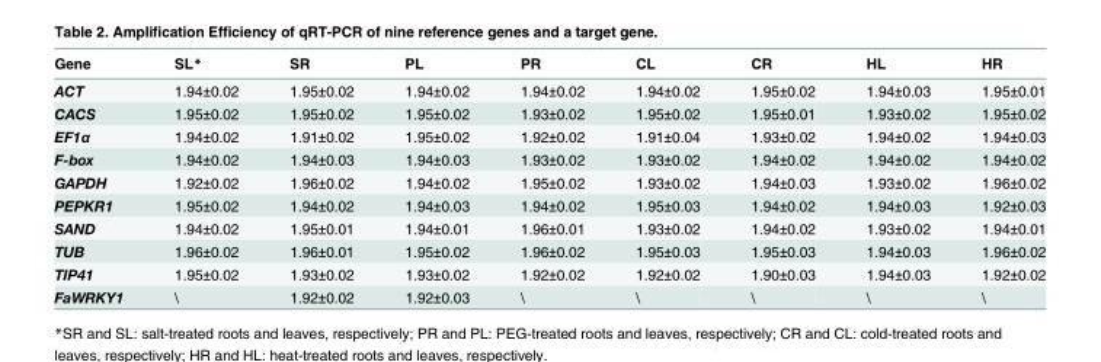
<table><thead><tr><td>Gene</td><td>SL*</td><td>SR</td><td>PL</td><td>PR</td><td>CL</td><td>CR</td><td>HL</td><td>HR</td></tr></thead><tbody><tr><td>ACT</td><td>1.94±0.02</td><td>1.95±0.02</td><td>1.94±0.02</td><td>1.94±0.02</td><td>1.94±0.02</td><td>1.95±0.02</td><td>1.94±0.03</td><td>1.95±0.01</td></tr><tr><td>CACS</td><td>1.95±0.02</td><td>1.95±0.02</td><td>1.95±0.02</td><td>1.93±0.02</td><td>1.95±0.02</td><td>1.95±0.01</td><td>1.93±0.02</td><td>1.95±0.02</td></tr><tr><td>EF1α</td><td>1.94±0.02</td><td>1.91±0.02</td><td>1.95±0.02</td><td>1.92±0.02</td><td>1.91±0.04</td><td>1.93±0.02</td><td>1.94±0.02</td><td>1.94±0.03</td></tr><tr><td>F-box</td><td>1.94±0.02</td><td>1.94±0.03</td><td>1.94±0.03</td><td>1.93±0.02</td><td>1.93±0.02</td><td>1.94±0.02</td><td>1.94±0.02</td><td>1.94±0.02</td></tr><tr><td>GAPDH</td><td>1.92±0.02</td><td>1.96±0.02</td><td>1.94±0.02</td><td>1.95±0.02</td><td>1.93±0.02</td><td>1.94±0.03</td><td>1.93±0.02</td><td>1.96±0.02</td></tr><tr><td>PEPKR1</td><td>1.95±0.02</td><td>1.94±0.02</td><td>1.94±0.03</td><td>1.94±0.02</td><td>1.95±0.03</td><td>1.94±0.02</td><td>1.94±0.03</td><td>1.92±0.03</td></tr><tr><td>SAND</td><td>1.94±0.02</td><td>1.95±0.01</td><td>1.94±0.01</td><td>1.96±0.01</td><td>1.93±0.02</td><td>1.94±0.02</td><td>1.93±0.02</td><td>1.94±0.01</td></tr><tr><td>TUB</td><td>1.96±0.02</td><td>1.96±0.01</td><td>1.95±0.02</td><td>1.96±0.02</td><td>1.95±0.03</td><td>1.95±0.03</td><td>1.94±0.03</td><td>1.96±0.02</td></tr><tr><td>TIP41</td><td>1.95±0.02</td><td>1.93±0.02</td><td>1.93±0.02</td><td>1.92±0.02</td><td>1.92±0.02</td><td>1.90±0.03</td><td>1.94±0.03</td><td>1.92±0.02</td></tr><tr><td>FaWRKY1</td><td>\</td><td>1.92±0.02</td><td>1.92±0.03</td><td>\</td><td>\</td><td>\</td><td>\</td><td>\</td></tr></tbody></table>